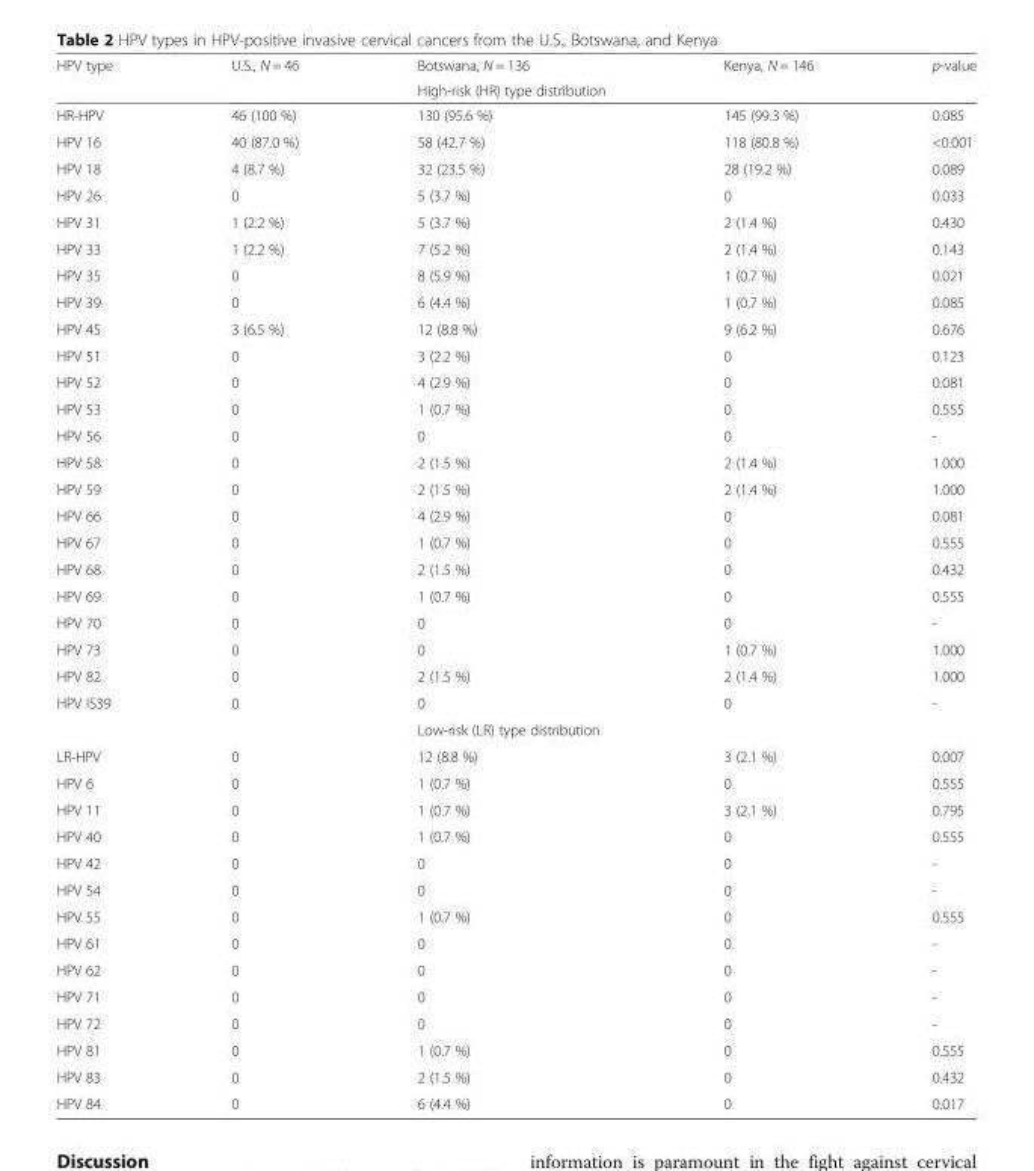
<table><thead><tr><td rowspan="2">HPV type</td><td rowspan="2">U.S., N = 46</td><td rowspan="2">Botswana, N = 136 High-risk (HR) type distribution</td><td rowspan="2">Kenya, N = 146</td><td rowspan="2">p-value</td></tr><tr></tr></thead><tbody><tr><td>HR-HPV</td><td>46 (100 %)</td><td>130 (95.6 %)</td><td>145 (99.3 %)</td><td>0.085</td></tr><tr><td>HPV 16</td><td>40 (87.0 %)</td><td>58 (42.7 %)</td><td>118 (80.8 %)</td><td>&lt;0.001</td></tr><tr><td>HPV 18</td><td>4 (8.7 %)</td><td>32 (23.5 %)</td><td>28 (19.2 %)</td><td>0.089</td></tr><tr><td>HPV 26</td><td>0</td><td>5 (3.7 %)</td><td>0</td><td>0.033</td></tr><tr><td>HPV 31</td><td>1 (2.2 %)</td><td>5 (3.7 %)</td><td>2 (1.4 %)</td><td>0.430</td></tr><tr><td>HPV 33</td><td>1 (2.2 %)</td><td>7 (5.2 %)</td><td>2 (1.4 %)</td><td>0.143</td></tr><tr><td>HPV 35</td><td>0</td><td>8 (5.9 %)</td><td>1 (0.7 %)</td><td>0.021</td></tr><tr><td>HPV 39</td><td>0</td><td>6 (4.4 %)</td><td>1 (0.7 %)</td><td>0.085</td></tr><tr><td>HPV 45</td><td>3 (6.5 %)</td><td>12 (8.8 %)</td><td>9 (6.2 %)</td><td>0.676</td></tr><tr><td>HPV 51</td><td>0</td><td>3 (2.2 %)</td><td>0</td><td>0.123</td></tr><tr><td>HPV 52</td><td>0</td><td>4 (2.9 %)</td><td>0</td><td>0.081</td></tr><tr><td>HPV 53</td><td>0</td><td>1 (0.7 %)</td><td>0</td><td>0.555</td></tr><tr><td>HPV 56</td><td>0</td><td>0</td><td>0</td><td>-</td></tr><tr><td>HPV 58</td><td>0</td><td>2 (1.5 %)</td><td>2 (1.4 %)</td><td>1.000</td></tr><tr><td>HPV 59</td><td>0</td><td>2 (1.5 %)</td><td>2 (1.4 %)</td><td>1.000</td></tr><tr><td>HPV 66</td><td>0</td><td>4 (2.9 %)</td><td>0</td><td>0.081</td></tr><tr><td>HPV 67</td><td>0</td><td>1 (0.7 %)</td><td>0</td><td>0.555</td></tr><tr><td>HPV 68</td><td>0</td><td>2 (1.5 %)</td><td>0</td><td>0.432</td></tr><tr><td>HPV 69</td><td>0</td><td>1 (0.7 %)</td><td>0</td><td>0.555</td></tr><tr><td>HPV 70</td><td>0</td><td>0</td><td>0</td><td>-</td></tr><tr><td>HPV 73</td><td>0</td><td>0</td><td>1 (0.7 %)</td><td>1.000</td></tr><tr><td>HPV 82</td><td>0</td><td>2 (1.5 %)</td><td>2 (1.4 %)</td><td>1.000</td></tr><tr><td rowspan="2">HPV IS39</td><td>0</td><td>0</td><td>0</td><td>-</td></tr><tr><td></td><td>Low-risk (LR) type distribution</td><td></td><td></td></tr><tr><td>LR-HPV</td><td>0</td><td>12 (8.8 %)</td><td>3 (2.1 %)</td><td>0.007</td></tr><tr><td>HPV 6</td><td>0</td><td>1 (0.7 %)</td><td>0</td><td>0.555</td></tr><tr><td>HPV 11</td><td>0</td><td>1 (0.7 %)</td><td>3 (2.1 %)</td><td>0.795</td></tr><tr><td>HPV 40</td><td>0</td><td>1 (0.7 %)</td><td>0</td><td>0.555</td></tr><tr><td>HPV 42</td><td>0</td><td>0</td><td>0</td><td>-</td></tr><tr><td>HPV 54</td><td>0</td><td>0</td><td>0</td><td>-</td></tr><tr><td>HPV 55</td><td>0</td><td>1 (0.7 %)</td><td>0</td><td>0.555</td></tr><tr><td>HPV 61</td><td>0</td><td>0</td><td>0</td><td>-</td></tr><tr><td>HPV 62</td><td>0</td><td>0</td><td>0</td><td>-</td></tr><tr><td>HPV 71</td><td>0</td><td>0</td><td>0</td><td>-</td></tr><tr><td>HPV 72</td><td>0</td><td>0</td><td>0</td><td>-</td></tr><tr><td>HPV 81</td><td>0</td><td>1 (0.7 %)</td><td>0</td><td>0.555</td></tr><tr><td>HPV 83</td><td>0</td><td>2 (1.5 %)</td><td>0</td><td>0.432</td></tr><tr><td>HPV 84</td><td>0</td><td>6 (4.4 %)</td><td>0</td><td>0.017</td></tr></tbody></table>